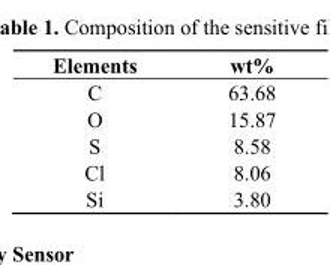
<table><thead><tr><td>Elements</td><td>wt%</td></tr></thead><tbody><tr><td>C</td><td>63.68</td></tr><tr><td>O</td><td>15.87</td></tr><tr><td>S</td><td>8.58</td></tr><tr><td>Cl</td><td>8.06</td></tr><tr><td>Si</td><td>3.80</td></tr></tbody></table>